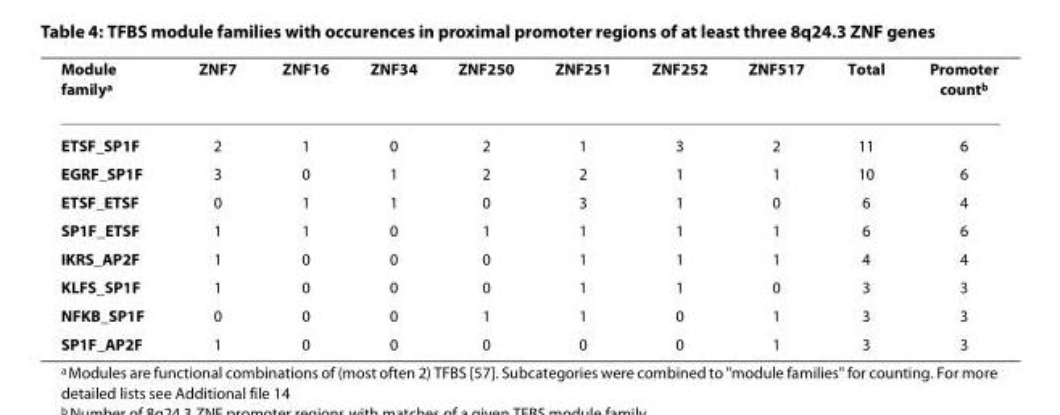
<table><thead><tr><td>Module family<sup>a</sup></td><td>ZNF7</td><td>ZNF16</td><td>ZNF34</td><td>ZNF250</td><td>ZNF251</td><td>ZNF252</td><td>ZNF517</td><td>Total</td><td>Promoter count<sup>b</sup></td></tr></thead><tbody><tr><td>ETSF_SP1F</td><td>2</td><td>1</td><td>0</td><td>2</td><td>1</td><td>3</td><td>2</td><td>11</td><td>6</td></tr><tr><td>EGRF_SP1F</td><td>3</td><td>0</td><td>1</td><td>2</td><td>2</td><td>1</td><td>1</td><td>10</td><td>6</td></tr><tr><td>ETSF_ETSF</td><td>0</td><td>1</td><td>1</td><td>0</td><td>3</td><td>1</td><td>0</td><td>6</td><td>4</td></tr><tr><td>SP1F_ETSF</td><td>1</td><td>1</td><td>0</td><td>1</td><td>1</td><td>1</td><td>1</td><td>6</td><td>6</td></tr><tr><td>IKRS_AP2F</td><td>1</td><td>0</td><td>0</td><td>0</td><td>1</td><td>1</td><td>1</td><td>4</td><td>4</td></tr><tr><td>KLFS_SP1F</td><td>1</td><td>0</td><td>0</td><td>0</td><td>1</td><td>1</td><td>0</td><td>3</td><td>3</td></tr><tr><td>NFKB_SP1F</td><td>0</td><td>0</td><td>0</td><td>1</td><td>1</td><td>0</td><td>1</td><td>3</td><td>3</td></tr><tr><td>SP1F_AP2F</td><td>1</td><td>0</td><td>0</td><td>0</td><td>0</td><td>0</td><td>1</td><td>3</td><td>3</td></tr></tbody></table>